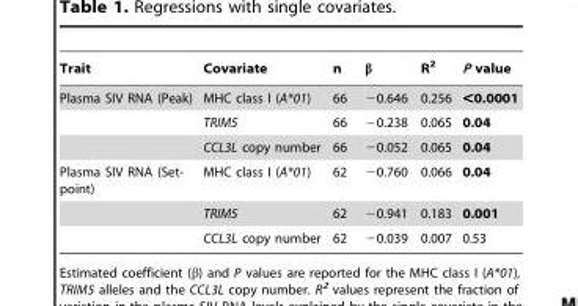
<table><thead><tr><td>Trait</td><td>Covariate</td><td>n</td><td>β</td><td>R<sup>2</sup></td><td>P value</td></tr></thead><tbody><tr><td rowspan="3">Plasma SIV RNA (Peak)</td><td>MHC class I (A*01)</td><td>66</td><td>−0.646</td><td>0.256</td><td>&lt;0.0001</td></tr><tr><td>TRIM5</td><td>66</td><td>−0.238</td><td>0.065</td><td>0.04</td></tr><tr><td>CCL3L copy number</td><td>66</td><td>−0.052</td><td>0.065</td><td>0.04</td></tr><tr><td rowspan="3">Plasma SIV RNA (Set- point)</td><td>MHC class I (A*01)</td><td>62</td><td>−0.760</td><td>0.066</td><td>0.04</td></tr><tr><td>TRIM5</td><td>62</td><td>−0.941</td><td>0.183</td><td>0.001</td></tr><tr><td>CCL3L copy number</td><td>62</td><td>−0.039</td><td>0.007</td><td>0.53</td></tr></tbody></table>